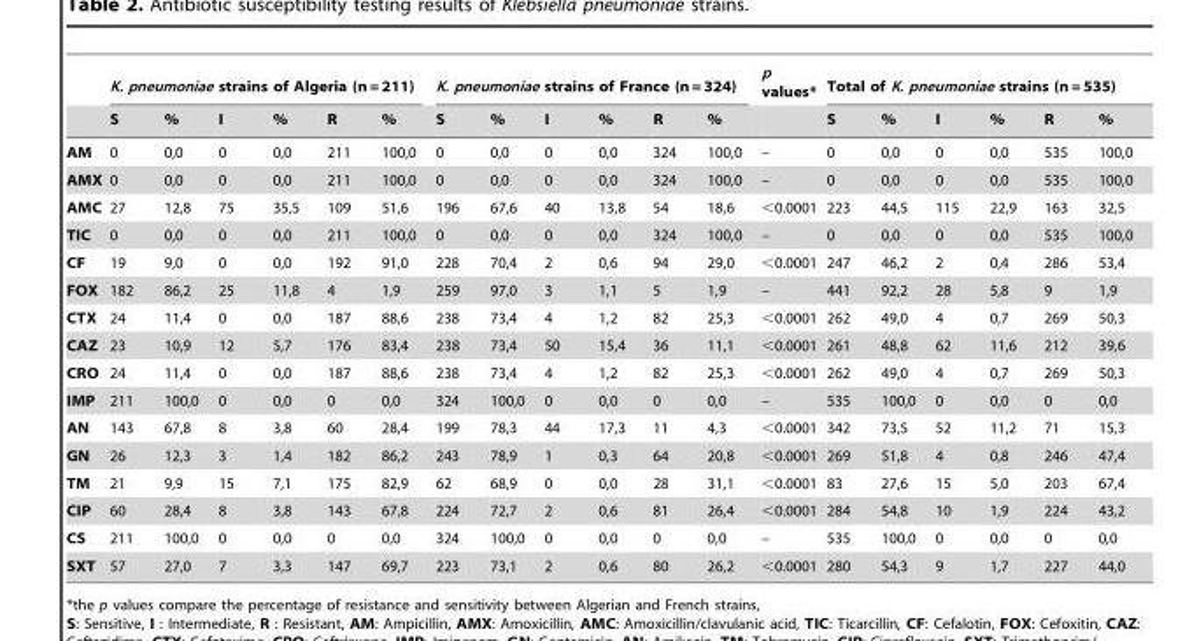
<table><thead><tr><td rowspan="2"></td><td colspan="6">K. pneumoniae strains of Algeria (n = 211)</td><td colspan="6">K. pneumoniae strains of France (n = 324)</td><td rowspan="2">p values*</td><td colspan="6">Total of K. pneumoniae strains (n = 535)</td></tr><tr><td>S</td><td>%</td><td>I</td><td>%</td><td>R</td><td>%</td><td>S</td><td>%</td><td>I</td><td>%</td><td>R</td><td>%</td><td>S</td><td>%</td><td>I</td><td>%</td><td>R</td><td>%</td></tr></thead><tbody><tr><td>AM</td><td>0</td><td>0,0</td><td>0</td><td>0,0</td><td>211</td><td>100,0</td><td>0</td><td>0,0</td><td>0</td><td>0,0</td><td>324</td><td>100,0</td><td>–</td><td>0</td><td>0,0</td><td>0</td><td>0,0</td><td>535</td><td>100,0</td></tr><tr><td>AMX</td><td>0</td><td>0,0</td><td>0</td><td>0,0</td><td>211</td><td>100,0</td><td>0</td><td>0,0</td><td>0</td><td>0,0</td><td>324</td><td>100,0</td><td>–</td><td>0</td><td>0,0</td><td>0</td><td>0,0</td><td>535</td><td>100,0</td></tr><tr><td>AMC</td><td>27</td><td>12,8</td><td>75</td><td>35,5</td><td>109</td><td>51,6</td><td>196</td><td>67,6</td><td>40</td><td>13,8</td><td>54</td><td>18,6</td><td>&lt;0.0001</td><td>223</td><td>44,5</td><td>115</td><td>22,9</td><td>163</td><td>32,5</td></tr><tr><td>TIC</td><td>0</td><td>0,0</td><td>0</td><td>0,0</td><td>211</td><td>100,0</td><td>0</td><td>0,0</td><td>0</td><td>0,0</td><td>324</td><td>100,0</td><td>–</td><td>0</td><td>0,0</td><td>0</td><td>0,0</td><td>535</td><td>100,0</td></tr><tr><td>CF</td><td>19</td><td>9,0</td><td>0</td><td>0,0</td><td>192</td><td>91,0</td><td>228</td><td>70,4</td><td>2</td><td>0,6</td><td>94</td><td>29,0</td><td>&lt;0.0001</td><td>247</td><td>46,2</td><td>2</td><td>0,4</td><td>286</td><td>53,4</td></tr><tr><td>FOX</td><td>182</td><td>86,2</td><td>25</td><td>11,8</td><td>4</td><td>1,9</td><td>259</td><td>97,0</td><td>3</td><td>1,1</td><td>5</td><td>1,9</td><td>–</td><td>441</td><td>92,2</td><td>28</td><td>5,8</td><td>9</td><td>1,9</td></tr><tr><td>CTX</td><td>24</td><td>11,4</td><td>0</td><td>0,0</td><td>187</td><td>88,6</td><td>238</td><td>73,4</td><td>4</td><td>1,2</td><td>82</td><td>25,3</td><td>&lt;0.0001</td><td>262</td><td>49,0</td><td>4</td><td>0,7</td><td>269</td><td>50,3</td></tr><tr><td>CAZ</td><td>23</td><td>10,9</td><td>12</td><td>5,7</td><td>176</td><td>83,4</td><td>238</td><td>73,4</td><td>50</td><td>15,4</td><td>36</td><td>11,1</td><td>&lt;0.0001</td><td>261</td><td>48,8</td><td>62</td><td>11,6</td><td>212</td><td>39,6</td></tr><tr><td>CRO</td><td>24</td><td>11,4</td><td>0</td><td>0,0</td><td>187</td><td>88,6</td><td>238</td><td>73,4</td><td>4</td><td>1,2</td><td>82</td><td>25,3</td><td>&lt;0.0001</td><td>262</td><td>49,0</td><td>4</td><td>0,7</td><td>269</td><td>50,3</td></tr><tr><td>IMP</td><td>211</td><td>100,0</td><td>0</td><td>0,0</td><td>0</td><td>0,0</td><td>324</td><td>100,0</td><td>0</td><td>0,0</td><td>0</td><td>0,0</td><td>–</td><td>535</td><td>100,0</td><td>0</td><td>0,0</td><td>0</td><td>0,0</td></tr><tr><td>AN</td><td>143</td><td>67,8</td><td>8</td><td>3,8</td><td>60</td><td>28,4</td><td>199</td><td>78,3</td><td>44</td><td>17,3</td><td>11</td><td>4,3</td><td>&lt;0.0001</td><td>342</td><td>73,5</td><td>52</td><td>11,2</td><td>71</td><td>15,3</td></tr><tr><td>GN</td><td>26</td><td>12,3</td><td>3</td><td>1,4</td><td>182</td><td>86,2</td><td>243</td><td>78,9</td><td>1</td><td>0,3</td><td>64</td><td>20,8</td><td>&lt;0.0001</td><td>269</td><td>51,8</td><td>4</td><td>0,8</td><td>246</td><td>47,4</td></tr><tr><td>TM</td><td>21</td><td>9,9</td><td>15</td><td>7,1</td><td>175</td><td>82,9</td><td>62</td><td>68,9</td><td>0</td><td>0,0</td><td>28</td><td>31,1</td><td>&lt;0.0001</td><td>83</td><td>27,6</td><td>15</td><td>5,0</td><td>203</td><td>67,4</td></tr><tr><td>CIP</td><td>60</td><td>28,4</td><td>8</td><td>3,8</td><td>143</td><td>67,8</td><td>224</td><td>72,7</td><td>2</td><td>0,6</td><td>81</td><td>26,4</td><td>&lt;0.0001</td><td>284</td><td>54,8</td><td>10</td><td>1,9</td><td>224</td><td>43,2</td></tr><tr><td>CS</td><td>211</td><td>100,0</td><td>0</td><td>0,0</td><td>0</td><td>0,0</td><td>324</td><td>100,0</td><td>0</td><td>0,0</td><td>0</td><td>0,0</td><td>–</td><td>535</td><td>100,0</td><td>0</td><td>0,0</td><td>0</td><td>0,0</td></tr><tr><td>SXT</td><td>57</td><td>27,0</td><td>7</td><td>3,3</td><td>147</td><td>69,7</td><td>223</td><td>73,1</td><td>2</td><td>0,6</td><td>80</td><td>26,2</td><td>&lt;0.0001</td><td>280</td><td>54,3</td><td>9</td><td>1,7</td><td>227</td><td>44,0</td></tr></tbody></table>